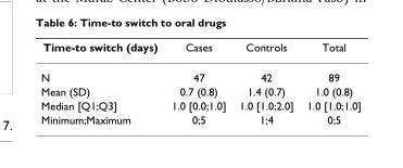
<table><thead><tr><td>Time-to switch (days)</td><td>Cases</td><td>Controls</td><td>Total</td></tr></thead><tbody><tr><td>N</td><td>47</td><td>42</td><td>89</td></tr><tr><td>Mean (SD)</td><td>0.7 (0.8)</td><td>1.4 (0.7)</td><td>1.0 (0.8)</td></tr><tr><td>Median [Q1;Q3]</td><td>1.0 [0.0;1.0]</td><td>1.0 [1.0;2.0]</td><td>1.0 [1.0;1.0]</td></tr><tr><td>Minimum;Maximum</td><td>0;5</td><td>1;4</td><td>0;5</td></tr></tbody></table>